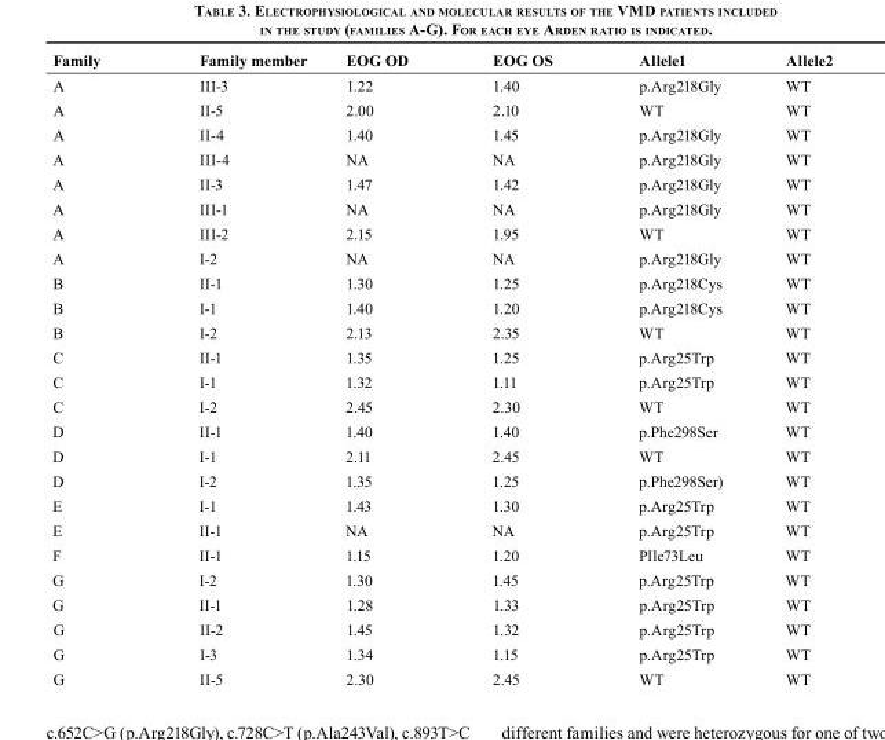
<table><thead><tr><td>Family</td><td>Family member</td><td>EOG OD</td><td>EOG OS</td><td>Allele1</td><td>Allele2</td></tr></thead><tbody><tr><td>A</td><td>III-3</td><td>1.22</td><td>1.40</td><td>p.Arg218Gly</td><td>WT</td></tr><tr><td>A</td><td>II-5</td><td>2.00</td><td>2.10</td><td>WT</td><td>WT</td></tr><tr><td>A</td><td>II-4</td><td>1.40</td><td>1.45</td><td>p.Arg218Gly</td><td>WT</td></tr><tr><td>A</td><td>III-4</td><td>NA</td><td>NA</td><td>p.Arg218Gly</td><td>WT</td></tr><tr><td>A</td><td>II-3</td><td>1.47</td><td>1.42</td><td>p.Arg218Gly</td><td>WT</td></tr><tr><td>A</td><td>III-1</td><td>NA</td><td>NA</td><td>p.Arg218Gly</td><td>WT</td></tr><tr><td>A</td><td>III-2</td><td>2.15</td><td>1.95</td><td>WT</td><td>WT</td></tr><tr><td>A</td><td>I-2</td><td>NA</td><td>NA</td><td>p.Arg218Gly</td><td>WT</td></tr><tr><td>B</td><td>II-1</td><td>1.30</td><td>1.25</td><td>p.Arg218Cys</td><td>WT</td></tr><tr><td>B</td><td>I-1</td><td>1.40</td><td>1.20</td><td>p.Arg218Cys</td><td>WT</td></tr><tr><td>B</td><td>I-2</td><td>2.13</td><td>2.35</td><td>WT</td><td>WT</td></tr><tr><td>C</td><td>II-1</td><td>1.35</td><td>1.25</td><td>p.Arg25Trp</td><td>WT</td></tr><tr><td>C</td><td>I-1</td><td>1.32</td><td>1.11</td><td>p.Arg25Trp</td><td>WT</td></tr><tr><td>C</td><td>I-2</td><td>2.45</td><td>2.30</td><td>WT</td><td>WT</td></tr><tr><td>D</td><td>II-1</td><td>1.40</td><td>1.40</td><td>p.Phe298Ser</td><td>WT</td></tr><tr><td>D</td><td>I-1</td><td>2.11</td><td>2.45</td><td>WT</td><td>WT</td></tr><tr><td>D</td><td>I-2</td><td>1.35</td><td>1.25</td><td>p.Phe298Ser)</td><td>WT</td></tr><tr><td>E</td><td>I-1</td><td>1.43</td><td>1.30</td><td>p.Arg25Trp</td><td>WT</td></tr><tr><td>E</td><td>II-1</td><td>NA</td><td>NA</td><td>p.Arg25Trp</td><td>WT</td></tr><tr><td>F</td><td>II-1</td><td>1.15</td><td>1.20</td><td>PIle73Leu</td><td>WT</td></tr><tr><td>G</td><td>I-2</td><td>1.30</td><td>1.45</td><td>p.Arg25Trp</td><td>WT</td></tr><tr><td>G</td><td>II-1</td><td>1.28</td><td>1.33</td><td>p.Arg25Trp</td><td>WT</td></tr><tr><td>G</td><td>II-2</td><td>1.45</td><td>1.32</td><td>p.Arg25Trp</td><td>WT</td></tr><tr><td>G</td><td>I-3</td><td>1.34</td><td>1.15</td><td>p.Arg25Trp</td><td>WT</td></tr><tr><td>G</td><td>II-5</td><td>2.30</td><td>2.45</td><td>WT</td><td>WT</td></tr></tbody></table>